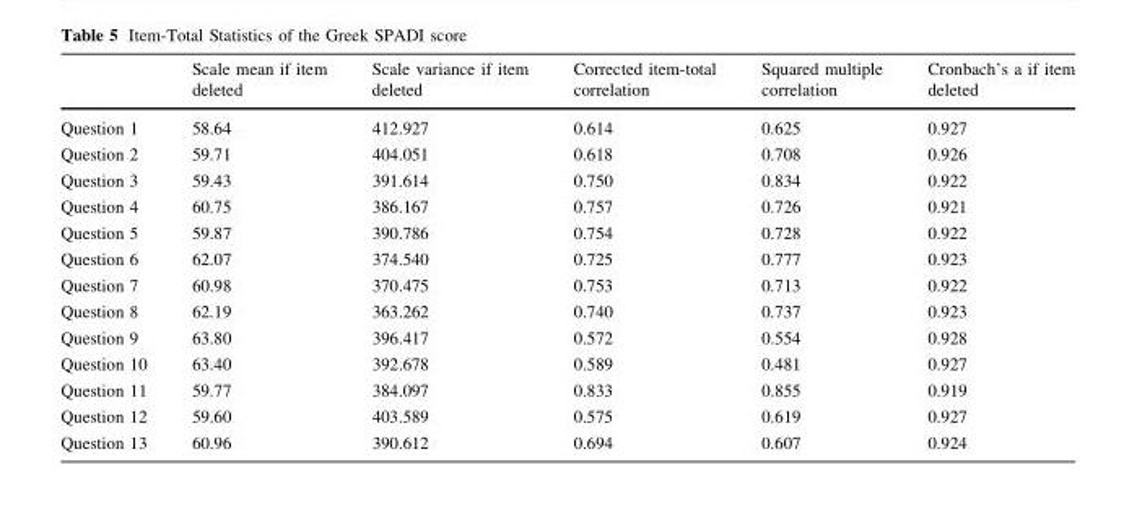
<table><thead><tr><td></td><td>Scale mean if item deleted</td><td>Scale variance if item deleted</td><td>Corrected item-total correlation</td><td>Squared multiple correlation</td><td>Cronbach’s a if item deleted</td></tr></thead><tbody><tr><td>Question 1</td><td>58.64</td><td>412.927</td><td>0.614</td><td>0.625</td><td>0.927</td></tr><tr><td>Question 2</td><td>59.71</td><td>404.051</td><td>0.618</td><td>0.708</td><td>0.926</td></tr><tr><td>Question 3</td><td>59.43</td><td>391.614</td><td>0.750</td><td>0.834</td><td>0.922</td></tr><tr><td>Question 4</td><td>60.75</td><td>386.167</td><td>0.757</td><td>0.726</td><td>0.921</td></tr><tr><td>Question 5</td><td>59.87</td><td>390.786</td><td>0.754</td><td>0.728</td><td>0.922</td></tr><tr><td>Question 6</td><td>62.07</td><td>374.540</td><td>0.725</td><td>0.777</td><td>0.923</td></tr><tr><td>Question 7</td><td>60.98</td><td>370.475</td><td>0.753</td><td>0.713</td><td>0.922</td></tr><tr><td>Question 8</td><td>62.19</td><td>363.262</td><td>0.740</td><td>0.737</td><td>0.923</td></tr><tr><td>Question 9</td><td>63.80</td><td>396.417</td><td>0.572</td><td>0.554</td><td>0.928</td></tr><tr><td>Question 10</td><td>63.40</td><td>392.678</td><td>0.589</td><td>0.481</td><td>0.927</td></tr><tr><td>Question 11</td><td>59.77</td><td>384.097</td><td>0.833</td><td>0.855</td><td>0.919</td></tr><tr><td>Question 12</td><td>59.60</td><td>403.589</td><td>0.575</td><td>0.619</td><td>0.927</td></tr><tr><td>Question 13</td><td>60.96</td><td>390.612</td><td>0.694</td><td>0.607</td><td>0.924</td></tr></tbody></table>